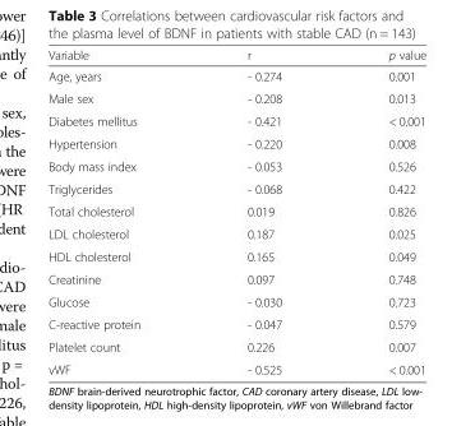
<table><thead><tr><td>Variable</td><td>r</td><td>p value</td></tr></thead><tbody><tr><td>Age, years</td><td>- 0.274</td><td>0.001</td></tr><tr><td>Male sex</td><td>- 0.208</td><td>0.013</td></tr><tr><td>Diabetes mellitus</td><td>- 0.421</td><td>&lt; 0.001</td></tr><tr><td>Hypertension</td><td>- 0.220</td><td>0.008</td></tr><tr><td>Body mass index</td><td>- 0.053</td><td>0.526</td></tr><tr><td>Triglycerides</td><td>- 0.068</td><td>0.422</td></tr><tr><td>Total cholesterol</td><td>0.019</td><td>0.826</td></tr><tr><td>LDL cholesterol</td><td>0.187</td><td>0.025</td></tr><tr><td>HDL cholesterol</td><td>0.165</td><td>0.049</td></tr><tr><td>Creatinine</td><td>0.097</td><td>0.748</td></tr><tr><td>Glucose</td><td>- 0.030</td><td>0.723</td></tr><tr><td>C-reactive protein</td><td>- 0.047</td><td>0.579</td></tr><tr><td>Platelet count</td><td>0.226</td><td>0.007</td></tr><tr><td>vWF</td><td>- 0.525</td><td>&lt; 0.001</td></tr></tbody></table>